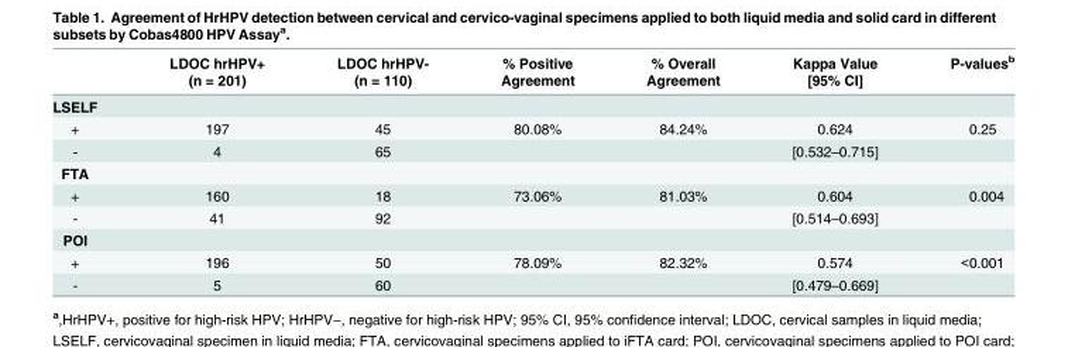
<table><thead><tr><td rowspan="2"></td><td rowspan="2">LDOC hrHPV+ (n = 201)</td><td rowspan="2">LDOC hrHPV- (n = 110)</td><td rowspan="2">% Positive Agreement</td><td rowspan="2">% Overall Agreement</td><td rowspan="2">Kappa Value [95% CI]</td><td rowspan="2">P-values<sup>b</sup></td></tr><tr></tr></thead><tbody><tr><td colspan="7">LSELF</td></tr><tr><td>+</td><td>197</td><td>45</td><td>80.08%</td><td>84.24%</td><td>0.624</td><td>0.25</td></tr><tr><td>-</td><td>4</td><td>65</td><td></td><td></td><td>[0.532–0.715]</td><td></td></tr><tr><td colspan="7">FTA</td></tr><tr><td>+</td><td>160</td><td>18</td><td>73.06%</td><td>81.03%</td><td>0.604</td><td>0.004</td></tr><tr><td>-</td><td>41</td><td>92</td><td></td><td></td><td>[0.514–0.693]</td><td></td></tr><tr><td colspan="7">POI</td></tr><tr><td>+</td><td>196</td><td>50</td><td>78.09%</td><td>82.32%</td><td>0.574</td><td>&lt;0.001</td></tr><tr><td>-</td><td>5</td><td>60</td><td></td><td></td><td>[0.479–0.669]</td><td></td></tr></tbody></table>